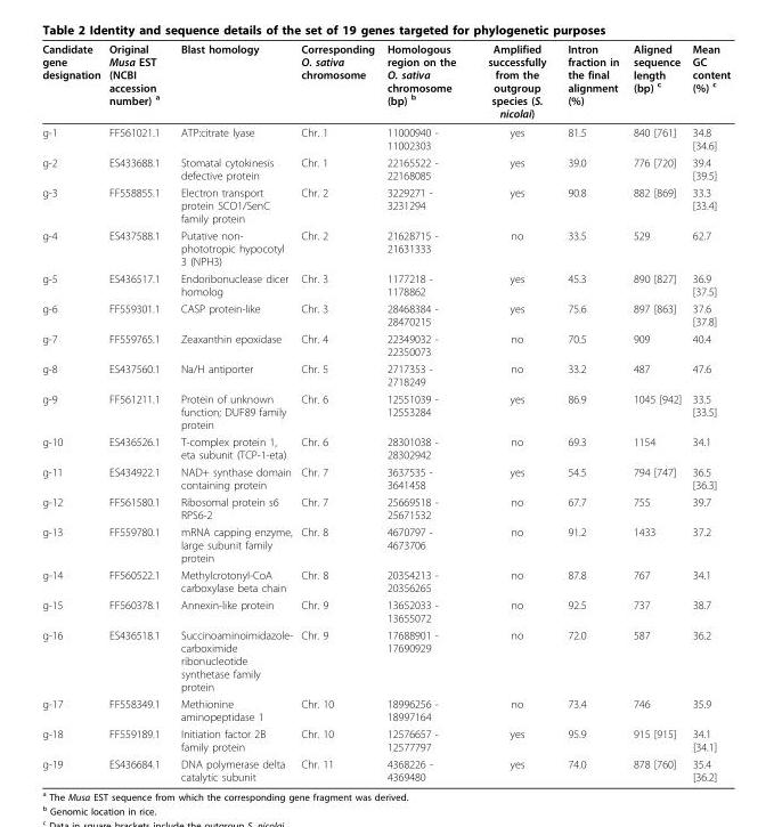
<table><thead><tr><td>Candidate gene designation</td><td>Original Musa EST (NCBI accession number) <sup>a</sup></td><td>Blast homology</td><td>Corresponding O. sativa chromosome</td><td>Homologous region on the O. sativa chromosome (bp) <sup>b</sup></td><td>Amplified successfully from the outgroup species (S. nicolai)</td><td>Intron fraction in the final alignment (%)</td><td>Aligned sequence length (bp) <sup>c</sup></td><td>Mean GC content (%) <sup>c</sup></td></tr></thead><tbody><tr><td>g-1</td><td>FF561021.1</td><td>ATP:citrate lyase</td><td>Chr. 1</td><td>11000940 - 11002303</td><td>yes</td><td>81.5</td><td>840 [761]</td><td>34.8 [34.6]</td></tr><tr><td>g-2</td><td>ES433688.1</td><td>Stomatal cytokinesis defective protein</td><td>Chr. 1</td><td>22165522 - 22168085</td><td>yes</td><td>39.0</td><td>776 [720]</td><td>39.4 [39.5]</td></tr><tr><td>g-3</td><td>FF558855.1</td><td>Electron transport protein SCO1/SenC family protein</td><td>Chr. 2</td><td>3229271 - 3231294</td><td>yes</td><td>90.8</td><td>882 [869]</td><td>33.3 [33.4]</td></tr><tr><td>g-4</td><td>ES437588.1</td><td>Putative non- phototropic hypocotyl 3 (NPH3)</td><td>Chr. 2</td><td>21628715 - 21631333</td><td>no</td><td>33.5</td><td>529</td><td>62.7</td></tr><tr><td>g-5</td><td>ES436517.1</td><td>Endoribonuclease dicer homolog</td><td>Chr. 3</td><td>1177218 - 1178862</td><td>yes</td><td>45.3</td><td>890 [827]</td><td>36.9 [37.5]</td></tr><tr><td>g-6</td><td>FF559301.1</td><td>CASP protein-like</td><td>Chr. 3</td><td>28468384 - 28470215</td><td>yes</td><td>75.6</td><td>897 [863]</td><td>37.6 [37.8]</td></tr><tr><td>g-7</td><td>FF559765.1</td><td>Zeaxanthin epoxidase</td><td>Chr. 4</td><td>22349032 - 22350073</td><td>no</td><td>70.5</td><td>909</td><td>40.4</td></tr><tr><td>g-8</td><td>ES437560.1</td><td>Na/H antiporter</td><td>Chr. 5</td><td>2717353 - 2718249</td><td>no</td><td>33.2</td><td>487</td><td>47.6</td></tr><tr><td>g-9</td><td>FF561211.1</td><td>Protein of unknown function; DUF89 family protein</td><td>Chr. 6</td><td>12551039 - 12553284</td><td>yes</td><td>86.9</td><td>1045 [942]</td><td>33.5 [33.5]</td></tr><tr><td>g-10</td><td>ES436526.1</td><td>T-complex protein 1, eta subunit (TCP-1-eta)</td><td>Chr. 6</td><td>28301038 - 28302942</td><td>no</td><td>69.3</td><td>1154</td><td>34.1</td></tr><tr><td>g-11</td><td>ES434922.1</td><td>NAD+ synthase domain containing protein</td><td>Chr. 7</td><td>3637535 - 3641458</td><td>yes</td><td>54.5</td><td>794 [747]</td><td>36.5 [36.3]</td></tr><tr><td>g-12</td><td>FF561580.1</td><td>Ribosomal protein s6 RPS6-2</td><td>Chr. 7</td><td>25669518 - 25671532</td><td>no</td><td>67.7</td><td>755</td><td>39.7</td></tr><tr><td>g-13</td><td>FF559780.1</td><td>mRNA capping enzyme, large subunit family protein</td><td>Chr. 8</td><td>4670797 - 4673706</td><td>no</td><td>91.2</td><td>1433</td><td>37.2</td></tr><tr><td>g-14</td><td>FF560522.1</td><td>Methylcrotonyl-CoA carboxylase beta chain</td><td>Chr. 8</td><td>20354213 - 20356265</td><td>no</td><td>87.8</td><td>767</td><td>34.1</td></tr><tr><td>g-15</td><td>FF560378.1</td><td>Annexin-like protein</td><td>Chr. 9</td><td>13652033 - 13655072</td><td>no</td><td>92.5</td><td>737</td><td>38.7</td></tr><tr><td>g-16</td><td>ES436518.1</td><td>Succinoaminoimidazole- carboximide ribonucleotide synthetase family protein</td><td>Chr. 9</td><td>17688901 - 17690929</td><td>no</td><td>72.0</td><td>587</td><td>36.2</td></tr><tr><td>g-17</td><td>FF558349.1</td><td>Methionine aminopeptidase 1</td><td>Chr. 10</td><td>18996256 - 18997164</td><td>no</td><td>73.4</td><td>746</td><td>35.9</td></tr><tr><td>g-18</td><td>FF559189.1</td><td>Initiation factor 2B family protein</td><td>Chr. 10</td><td>12576657 - 12577797</td><td>yes</td><td>95.9</td><td>915 [915]</td><td>34.1 [34.1]</td></tr><tr><td>g-19</td><td>ES436684.1</td><td>DNA polymerase delta catalytic subunit</td><td>Chr. 11</td><td>4368226 - 4369480</td><td>yes</td><td>74.0</td><td>878 [760]</td><td>35.4 [36.2]</td></tr></tbody></table>